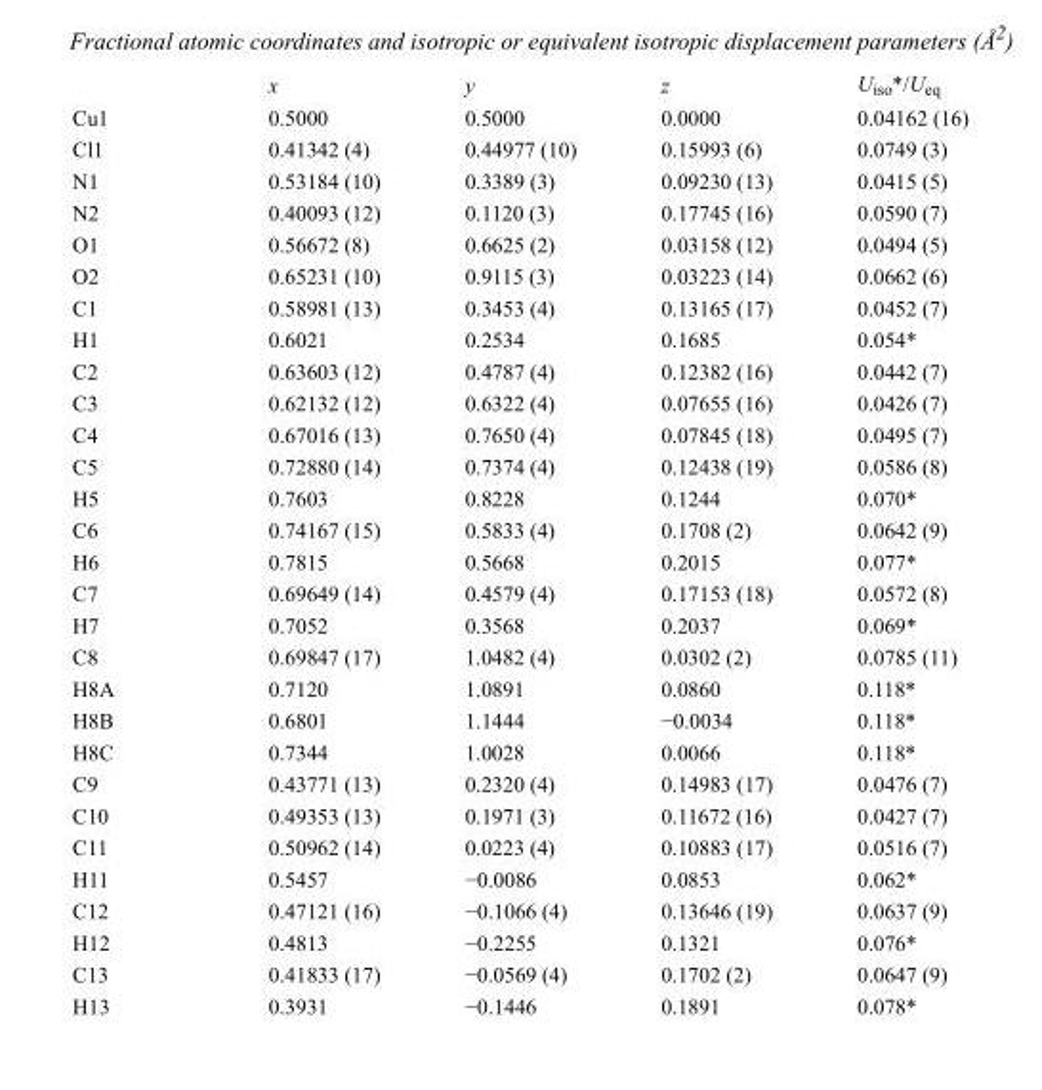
<table><thead><tr><td></td><td>x</td><td>y</td><td>z</td><td>U<sub>iso</sub>*/U<sub>eq</sub></td></tr></thead><tbody><tr><td>Cu1</td><td>0.5000</td><td>0.5000</td><td>0.0000</td><td>0.04162 (16)</td></tr><tr><td>Cl1</td><td>0.41342 (4)</td><td>0.44977 (10)</td><td>0.15993 (6)</td><td>0.0749 (3)</td></tr><tr><td>N1</td><td>0.53184 (10)</td><td>0.3389 (3)</td><td>0.09230 (13)</td><td>0.0415 (5)</td></tr><tr><td>N2</td><td>0.40093 (12)</td><td>0.1120 (3)</td><td>0.17745 (16)</td><td>0.0590 (7)</td></tr><tr><td>O1</td><td>0.56672 (8)</td><td>0.6625 (2)</td><td>0.03158 (12)</td><td>0.0494 (5)</td></tr><tr><td>O2</td><td>0.65231 (10)</td><td>0.9115 (3)</td><td>0.03223 (14)</td><td>0.0662 (6)</td></tr><tr><td>C1</td><td>0.58981 (13)</td><td>0.3453 (4)</td><td>0.13165 (17)</td><td>0.0452 (7)</td></tr><tr><td>H1</td><td>0.6021</td><td>0.2534</td><td>0.1685</td><td>0.054*</td></tr><tr><td>C2</td><td>0.63603 (12)</td><td>0.4787 (4)</td><td>0.12382 (16)</td><td>0.0442 (7)</td></tr><tr><td>C3</td><td>0.62132 (12)</td><td>0.6322 (4)</td><td>0.07655 (16)</td><td>0.0426 (7)</td></tr><tr><td>C4</td><td>0.67016 (13)</td><td>0.7650 (4)</td><td>0.07845 (18)</td><td>0.0495 (7)</td></tr><tr><td>C5</td><td>0.72880 (14)</td><td>0.7374 (4)</td><td>0.12438 (19)</td><td>0.0586 (8)</td></tr><tr><td>H5</td><td>0.7603</td><td>0.8228</td><td>0.1244</td><td>0.070*</td></tr><tr><td>C6</td><td>0.74167 (15)</td><td>0.5833 (4)</td><td>0.1708 (2)</td><td>0.0642 (9)</td></tr><tr><td>H6</td><td>0.7815</td><td>0.5668</td><td>0.2015</td><td>0.077*</td></tr><tr><td>C7</td><td>0.69649 (14)</td><td>0.4579 (4)</td><td>0.17153 (18)</td><td>0.0572 (8)</td></tr><tr><td>H7</td><td>0.7052</td><td>0.3568</td><td>0.2037</td><td>0.069*</td></tr><tr><td>C8</td><td>0.69847 (17)</td><td>1.0482 (4)</td><td>0.0302 (2)</td><td>0.0785 (11)</td></tr><tr><td>H8A</td><td>0.7120</td><td>1.0891</td><td>0.0860</td><td>0.118*</td></tr><tr><td>H8B</td><td>0.6801</td><td>1.1444</td><td>−0.0034</td><td>0.118*</td></tr><tr><td>H8C</td><td>0.7344</td><td>1.0028</td><td>0.0066</td><td>0.118*</td></tr><tr><td>C9</td><td>0.43771 (13)</td><td>0.2320 (4)</td><td>0.14983 (17)</td><td>0.0476 (7)</td></tr><tr><td>C10</td><td>0.49353 (13)</td><td>0.1971 (3)</td><td>0.11672 (16)</td><td>0.0427 (7)</td></tr><tr><td>C11</td><td>0.50962 (14)</td><td>0.0223 (4)</td><td>0.10883 (17)</td><td>0.0516 (7)</td></tr><tr><td>H11</td><td>0.5457</td><td>−0.0086</td><td>0.0853</td><td>0.062*</td></tr><tr><td>C12</td><td>0.47121 (16)</td><td>−0.1066 (4)</td><td>0.13646 (19)</td><td>0.0637 (9)</td></tr><tr><td>H12</td><td>0.4813</td><td>−0.2255</td><td>0.1321</td><td>0.076*</td></tr><tr><td>C13</td><td>0.41833 (17)</td><td>−0.0569 (4)</td><td>0.1702 (2)</td><td>0.0647 (9)</td></tr><tr><td>H13</td><td>0.3931</td><td>−0.1446</td><td>0.1891</td><td>0.078*</td></tr></tbody></table>